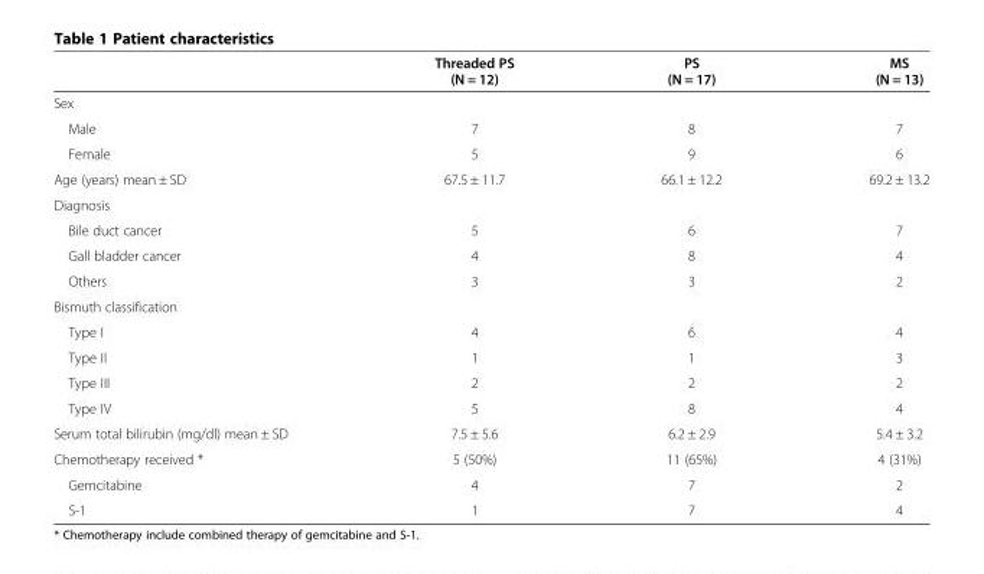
<table><thead><tr><td></td><td>Threaded PS (N = 12)</td><td>PS (N = 17)</td><td>MS (N = 13)</td></tr></thead><tbody><tr><td colspan="4">Sex</td></tr><tr><td>Male</td><td>7</td><td>8</td><td>7</td></tr><tr><td>Female</td><td>5</td><td>9</td><td>6</td></tr><tr><td>Age (years) mean ± SD</td><td>67.5 ± 11.7</td><td>66.1 ± 12.2</td><td>69.2 ± 13.2</td></tr><tr><td colspan="4">Diagnosis</td></tr><tr><td>Bile duct cancer</td><td>5</td><td>6</td><td>7</td></tr><tr><td>Gall bladder cancer</td><td>4</td><td>8</td><td>4</td></tr><tr><td>Others</td><td>3</td><td>3</td><td>2</td></tr><tr><td colspan="4">Bismuth classification</td></tr><tr><td>Type I</td><td>4</td><td>6</td><td>4</td></tr><tr><td>Type II</td><td>1</td><td>1</td><td>3</td></tr><tr><td>Type III</td><td>2</td><td>2</td><td>2</td></tr><tr><td>Type IV</td><td>5</td><td>8</td><td>4</td></tr><tr><td>Serum total bilirubin (mg/dl) mean ± SD</td><td>7.5 ± 5.6</td><td>6.2 ± 2.9</td><td>5.4 ± 3.2</td></tr><tr><td>Chemotherapy received *</td><td>5 (50%)</td><td>11 (65%)</td><td>4 (31%)</td></tr><tr><td>Gemcitabine</td><td>4</td><td>7</td><td>2</td></tr><tr><td>S-1</td><td>1</td><td>7</td><td>4</td></tr></tbody></table>